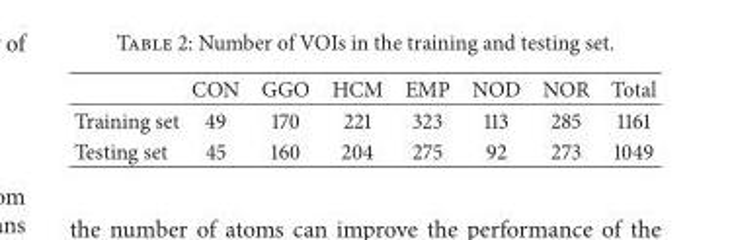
<table><thead><tr><td></td><td>CON</td><td>GGO</td><td>HCM</td><td>EMP</td><td>NOD</td><td>NOR</td><td>Total</td></tr></thead><tbody><tr><td>Training set</td><td>49</td><td>170</td><td>221</td><td>323</td><td>113</td><td>285</td><td>1161</td></tr><tr><td>Testing set</td><td>45</td><td>160</td><td>204</td><td>275</td><td>92</td><td>273</td><td>1049</td></tr></tbody></table>